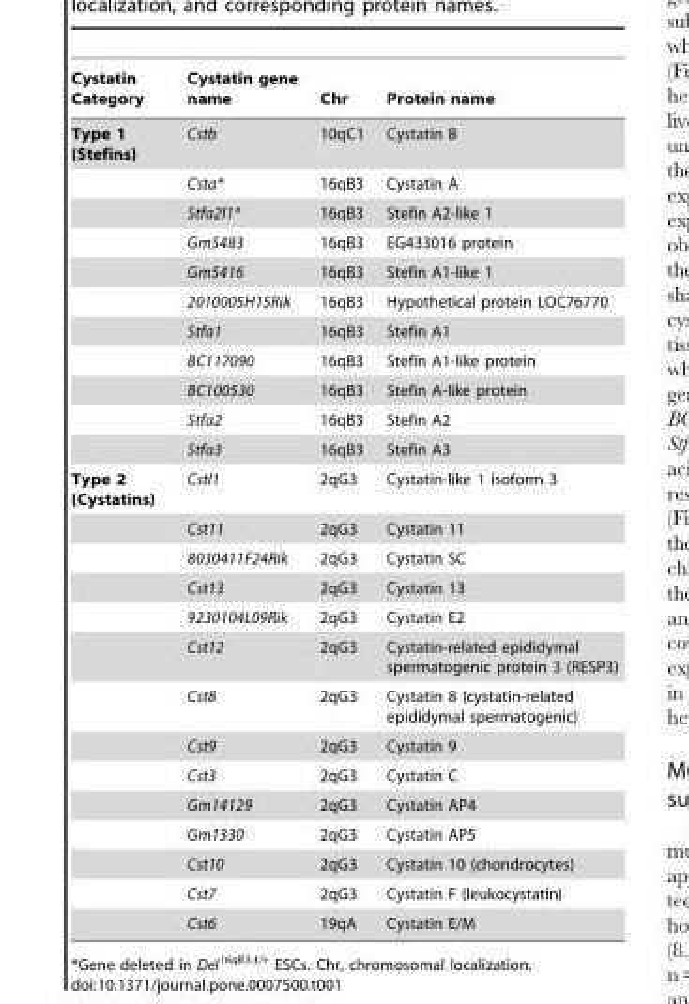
<table><thead><tr><td>Cystatin Category</td><td>Cystatin gene name</td><td>Chr</td><td>Protein name</td></tr></thead><tbody><tr><td rowspan="11">Type 1 (Stefins)</td><td>Cstb</td><td>10qC1</td><td>Cystatin B</td></tr><tr><td>Csta*</td><td>16qB3</td><td>Cystatin A</td></tr><tr><td>Stfa2l1*</td><td>16qB3</td><td>Stefin A2-like 1</td></tr><tr><td>Gm5483</td><td>16qB3</td><td>EG433016 protein</td></tr><tr><td>Gm5416</td><td>16qB3</td><td>Stefin A1-like 1</td></tr><tr><td>2010005H15Rik</td><td>16qB3</td><td>Hypothetical protein LOC76770</td></tr><tr><td>Stfa1</td><td>16qB3</td><td>Stefin A1</td></tr><tr><td>BC117090</td><td>16qB3</td><td>Stefin A1-like protein</td></tr><tr><td>BC100530</td><td>16qB3</td><td>Stefin A-like protein</td></tr><tr><td>Stfa2</td><td>16qB3</td><td>Stefin A2</td></tr><tr><td>Stfa3</td><td>16qB3</td><td>Stefin A3</td></tr><tr><td rowspan="14">Type 2 (Cystatins)</td><td>Cstl1</td><td>2qG3</td><td>Cystatin-like 1 isoform 3</td></tr><tr><td>Cst11</td><td>2qG3</td><td>Cystatin 11</td></tr><tr><td>8030411F24Rik</td><td>2qG3</td><td>Cystatin SC</td></tr><tr><td>Cst13</td><td>2qG3</td><td>Cystatin 13</td></tr><tr><td>9230104L09Rik</td><td>2qG3</td><td>Cystatin E2</td></tr><tr><td>Cst12</td><td>2qG3</td><td>Cystatin-related epididymal spermatogenic protein 3 (RESP3)</td></tr><tr><td>Cst8</td><td>2qG3</td><td>Cystatin 8 (cystatin-related epididymal spermatogenic)</td></tr><tr><td>Cst9</td><td>2qG3</td><td>Cystatin 9</td></tr><tr><td>Cst3</td><td>2qG3</td><td>Cystatin C</td></tr><tr><td>Gm14129</td><td>2qG3</td><td>Cystatin AP4</td></tr><tr><td>Gm1330</td><td>2qG3</td><td>Cystatin AP5</td></tr><tr><td>Cst10</td><td>2qG3</td><td>Cystatin 10 (chondrocytes)</td></tr><tr><td>Cst7</td><td>2qG3</td><td>Cystatin F (leukocystatin)</td></tr><tr><td>Cst6</td><td>19qA</td><td>Cystatin E/M</td></tr></tbody></table>